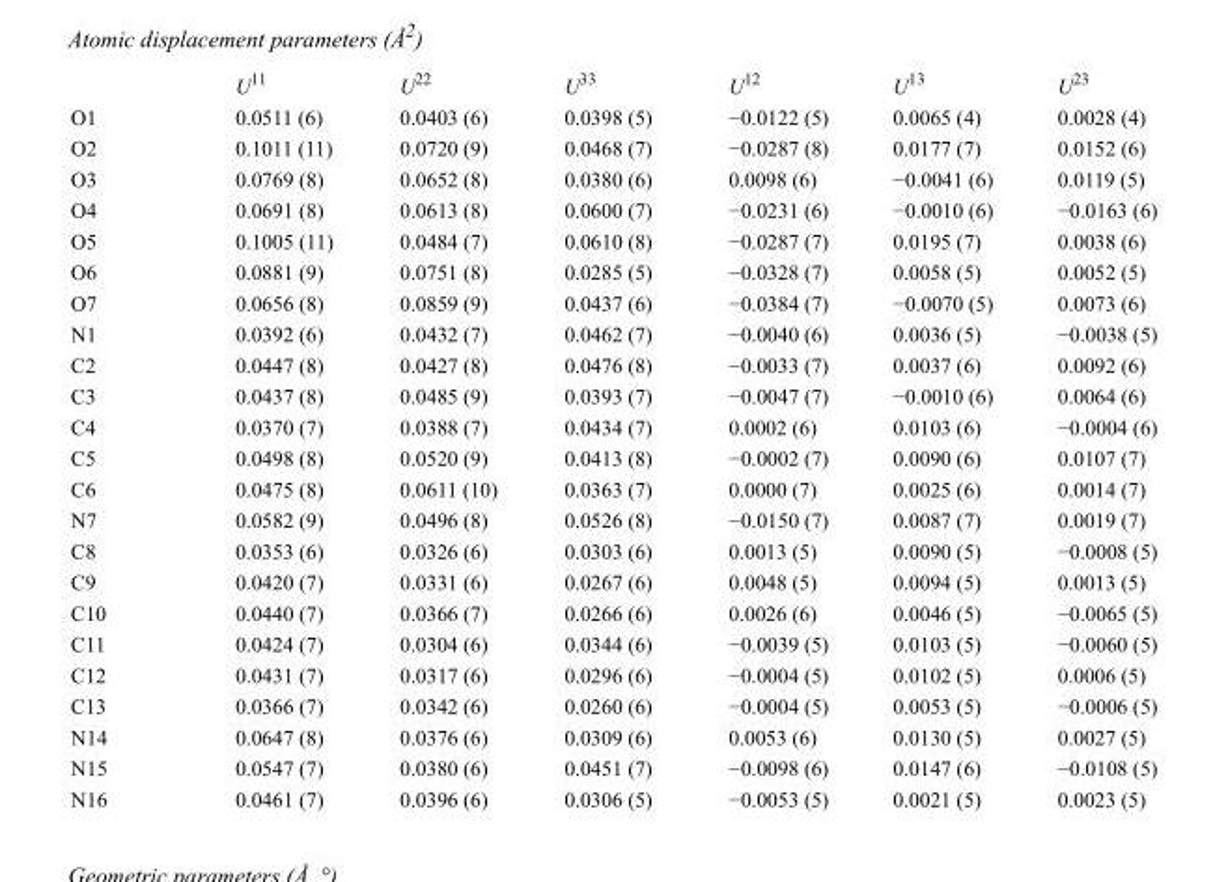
<table><thead><tr><td></td><td>U<sup>11</sup></td><td>U<sup>22</sup></td><td>U<sup>33</sup></td><td>U<sup>12</sup></td><td>U<sup>13</sup></td><td>U<sup>23</sup></td></tr></thead><tbody><tr><td>O1</td><td>0.0511 (6)</td><td>0.0403 (6)</td><td>0.0398 (5)</td><td>−0.0122 (5)</td><td>0.0065 (4)</td><td>0.0028 (4)</td></tr><tr><td>O2</td><td>0.1011 (11)</td><td>0.0720 (9)</td><td>0.0468 (7)</td><td>−0.0287 (8)</td><td>0.0177 (7)</td><td>0.0152 (6)</td></tr><tr><td>O3</td><td>0.0769 (8)</td><td>0.0652 (8)</td><td>0.0380 (6)</td><td>0.0098 (6)</td><td>−0.0041 (6)</td><td>0.0119 (5)</td></tr><tr><td>O4</td><td>0.0691 (8)</td><td>0.0613 (8)</td><td>0.0600 (7)</td><td>−0.0231 (6)</td><td>−0.0010 (6)</td><td>−0.0163 (6)</td></tr><tr><td>O5</td><td>0.1005 (11)</td><td>0.0484 (7)</td><td>0.0610 (8)</td><td>−0.0287 (7)</td><td>0.0195 (7)</td><td>0.0038 (6)</td></tr><tr><td>O6</td><td>0.0881 (9)</td><td>0.0751 (8)</td><td>0.0285 (5)</td><td>−0.0328 (7)</td><td>0.0058 (5)</td><td>0.0052 (5)</td></tr><tr><td>O7</td><td>0.0656 (8)</td><td>0.0859 (9)</td><td>0.0437 (6)</td><td>−0.0384 (7)</td><td>−0.0070 (5)</td><td>0.0073 (6)</td></tr><tr><td>N1</td><td>0.0392 (6)</td><td>0.0432 (7)</td><td>0.0462 (7)</td><td>−0.0040 (6)</td><td>0.0036 (5)</td><td>−0.0038 (5)</td></tr><tr><td>C2</td><td>0.0447 (8)</td><td>0.0427 (8)</td><td>0.0476 (8)</td><td>−0.0033 (7)</td><td>0.0037 (6)</td><td>0.0092 (6)</td></tr><tr><td>C3</td><td>0.0437 (8)</td><td>0.0485 (9)</td><td>0.0393 (7)</td><td>−0.0047 (7)</td><td>−0.0010 (6)</td><td>0.0064 (6)</td></tr><tr><td>C4</td><td>0.0370 (7)</td><td>0.0388 (7)</td><td>0.0434 (7)</td><td>0.0002 (6)</td><td>0.0103 (6)</td><td>−0.0004 (6)</td></tr><tr><td>C5</td><td>0.0498 (8)</td><td>0.0520 (9)</td><td>0.0413 (8)</td><td>−0.0002 (7)</td><td>0.0090 (6)</td><td>0.0107 (7)</td></tr><tr><td>C6</td><td>0.0475 (8)</td><td>0.0611 (10)</td><td>0.0363 (7)</td><td>0.0000 (7)</td><td>0.0025 (6)</td><td>0.0014 (7)</td></tr><tr><td>N7</td><td>0.0582 (9)</td><td>0.0496 (8)</td><td>0.0526 (8)</td><td>−0.0150 (7)</td><td>0.0087 (7)</td><td>0.0019 (7)</td></tr><tr><td>C8</td><td>0.0353 (6)</td><td>0.0326 (6)</td><td>0.0303 (6)</td><td>0.0013 (5)</td><td>0.0090 (5)</td><td>−0.0008 (5)</td></tr><tr><td>C9</td><td>0.0420 (7)</td><td>0.0331 (6)</td><td>0.0267 (6)</td><td>0.0048 (5)</td><td>0.0094 (5)</td><td>0.0013 (5)</td></tr><tr><td>C10</td><td>0.0440 (7)</td><td>0.0366 (7)</td><td>0.0266 (6)</td><td>0.0026 (6)</td><td>0.0046 (5)</td><td>−0.0065 (5)</td></tr><tr><td>C11</td><td>0.0424 (7)</td><td>0.0304 (6)</td><td>0.0344 (6)</td><td>−0.0039 (5)</td><td>0.0103 (5)</td><td>−0.0060 (5)</td></tr><tr><td>C12</td><td>0.0431 (7)</td><td>0.0317 (6)</td><td>0.0296 (6)</td><td>−0.0004 (5)</td><td>0.0102 (5)</td><td>0.0006 (5)</td></tr><tr><td>C13</td><td>0.0366 (7)</td><td>0.0342 (6)</td><td>0.0260 (6)</td><td>−0.0004 (5)</td><td>0.0053 (5)</td><td>−0.0006 (5)</td></tr><tr><td>N14</td><td>0.0647 (8)</td><td>0.0376 (6)</td><td>0.0309 (6)</td><td>0.0053 (6)</td><td>0.0130 (5)</td><td>0.0027 (5)</td></tr><tr><td>N15</td><td>0.0547 (7)</td><td>0.0380 (6)</td><td>0.0451 (7)</td><td>−0.0098 (6)</td><td>0.0147 (6)</td><td>−0.0108 (5)</td></tr><tr><td>N16</td><td>0.0461 (7)</td><td>0.0396 (6)</td><td>0.0306 (5)</td><td>−0.0053 (5)</td><td>0.0021 (5)</td><td>0.0023 (5)</td></tr></tbody></table>